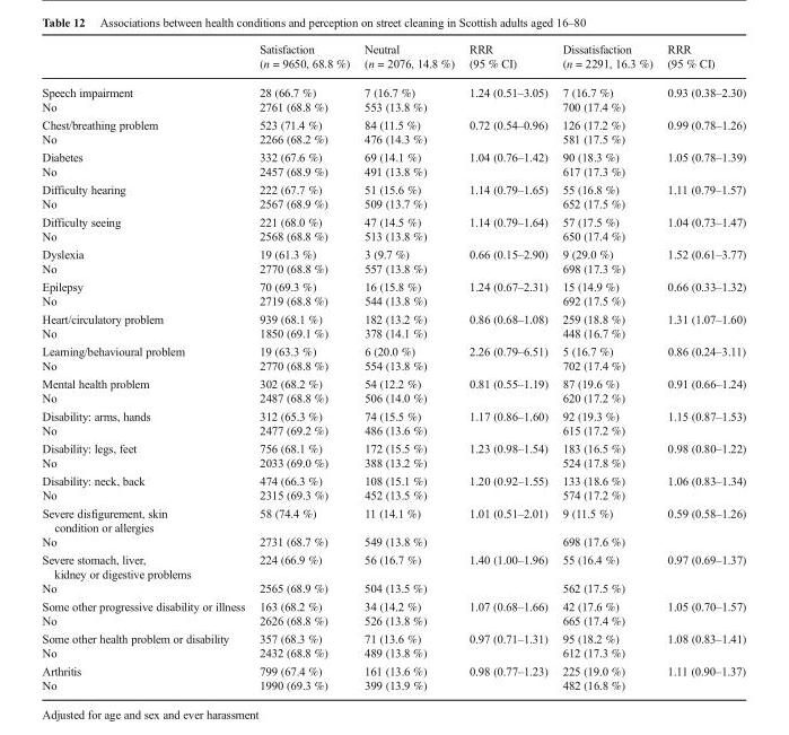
<table><thead><tr><td></td><td>Satisfaction (n = 9650, 68.8 %)</td><td>Neutral (n = 2076, 14.8 %)</td><td>RRR (95 % CI)</td><td>Dissatisfaction (n = 2291, 16.3 %)</td><td>RRR (95 % CI)</td></tr></thead><tbody><tr><td>Speech impairment</td><td>28 (66.7 %)</td><td>7 (16.7 %)</td><td rowspan="2">1.24 (0.51–3.05)</td><td>7 (16.7 %)</td><td rowspan="2">0.93 (0.38–2.30)</td></tr><tr><td>No</td><td>2761 (68.8 %)</td><td>553 (13.8 %)</td><td>700 (17.4 %)</td></tr><tr><td>Chest/breathing problem</td><td>523 (71.4 %)</td><td>84 (11.5 %)</td><td rowspan="2">0.72 (0.54–0.96)</td><td>126 (17.2 %)</td><td rowspan="2">0.99 (0.78–1.26)</td></tr><tr><td>No</td><td>2266 (68.2 %)</td><td>476 (14.3 %)</td><td>581 (17.5 %)</td></tr><tr><td>Diabetes</td><td>332 (67.6 %)</td><td>69 (14.1 %)</td><td rowspan="2">1.04 (0.76–1.42)</td><td>90 (18.3 %)</td><td rowspan="2">1.05 (0.78–1.39)</td></tr><tr><td>No</td><td>2457 (68.9 %)</td><td>491 (13.8 %)</td><td>617 (17.3 %)</td></tr><tr><td>Difficulty hearing</td><td>222 (67.7 %)</td><td>51 (15.6 %)</td><td rowspan="2">1.14 (0.79–1.65)</td><td>55 (16.8 %)</td><td rowspan="2">1.11 (0.79–1.57)</td></tr><tr><td>No</td><td>2567 (68.9 %)</td><td>509 (13.7 %)</td><td>652 (17.5 %)</td></tr><tr><td>Difficulty seeing</td><td>221 (68.0 %)</td><td>47 (14.5 %)</td><td rowspan="2">1.14 (0.79–1.64)</td><td>57 (17.5 %)</td><td rowspan="2">1.04 (0.73–1.47)</td></tr><tr><td>No</td><td>2568 (68.8 %)</td><td>513 (13.8 %)</td><td>650 (17.4 %)</td></tr><tr><td>Dyslexia</td><td>19 (61.3 %)</td><td>3 (9.7 %)</td><td rowspan="2">0.66 (0.15–2.90)</td><td>9 (29.0 %)</td><td rowspan="2">1.52 (0.61–3.77)</td></tr><tr><td>No</td><td>2770 (68.8 %)</td><td>557 (13.8 %)</td><td>698 (17.3 %)</td></tr><tr><td>Epilepsy</td><td>70 (69.3 %)</td><td>16 (15.8 %)</td><td rowspan="2">1.24 (0.67–2.31)</td><td>15 (14.9 %)</td><td rowspan="2">0.66 (0.33–1.32)</td></tr><tr><td>No</td><td>2719 (68.8 %)</td><td>544 (13.8 %)</td><td>692 (17.5 %)</td></tr><tr><td>Heart/circulatory problem</td><td>939 (68.1 %)</td><td>182 (13.2 %)</td><td rowspan="2">0.86 (0.68–1.08)</td><td>259 (18.8 %)</td><td rowspan="2">1.31 (1.07–1.60)</td></tr><tr><td>No</td><td>1850 (69.1 %)</td><td>378 (14.1 %)</td><td>448 (16.7 %)</td></tr><tr><td>Learning/behavioural problem</td><td>19 (63.3 %)</td><td>6 (20.0 %)</td><td rowspan="2">2.26 (0.79–6.51)</td><td>5 (16.7 %)</td><td rowspan="2">0.86 (0.24–3.11)</td></tr><tr><td>No</td><td>2770 (68.8 %)</td><td>554 (13.8 %)</td><td>702 (17.4 %)</td></tr><tr><td>Mental health problem</td><td>302 (68.2 %)</td><td>54 (12.2 %)</td><td rowspan="2">0.81 (0.55–1.19)</td><td>87 (19.6 %)</td><td rowspan="2">0.91 (0.66–1.24)</td></tr><tr><td>No</td><td>2487 (68.8 %)</td><td>506 (14.0 %)</td><td>620 (17.2 %)</td></tr><tr><td>Disability: arms, hands</td><td>312 (65.3 %)</td><td>74 (15.5 %)</td><td rowspan="2">1.17 (0.86–1.60)</td><td>92 (19.3 %)</td><td rowspan="2">1.15 (0.87–1.53)</td></tr><tr><td>No</td><td>2477 (69.2 %)</td><td>486 (13.6 %)</td><td>615 (17.2 %)</td></tr><tr><td>Disability: legs, feet</td><td>756 (68.1 %)</td><td>172 (15.5 %)</td><td rowspan="2">1.23 (0.98–1.54)</td><td>183 (16.5 %)</td><td rowspan="2">0.98 (0.80–1.22)</td></tr><tr><td>No</td><td>2033 (69.0 %)</td><td>388 (13.2 %)</td><td>524 (17.8 %)</td></tr><tr><td>Disability: neck, back</td><td>474 (66.3 %)</td><td>108 (15.1 %)</td><td rowspan="2">1.20 (0.92–1.55)</td><td>133 (18.6 %)</td><td rowspan="2">1.06 (0.83–1.34)</td></tr><tr><td>No</td><td>2315 (69.3 %)</td><td>452 (13.5 %)</td><td>574 (17.2 %)</td></tr><tr><td>Severe disfigurement, skin condition or allergies</td><td>58 (74.4 %)</td><td>11 (14.1 %)</td><td rowspan="2">1.01 (0.51–2.01)</td><td>9 (11.5 %)</td><td rowspan="2">0.59 (0.58–1.26)</td></tr><tr><td>No</td><td>2731 (68.7 %)</td><td>549 (13.8 %)</td><td>698 (17.6 %)</td></tr><tr><td>Severe stomach, liver, kidney or digestive problems</td><td>224 (66.9 %)</td><td>56 (16.7 %)</td><td rowspan="2">1.40 (1.00–1.96)</td><td>55 (16.4 %)</td><td rowspan="2">0.97 (0.69–1.37)</td></tr><tr><td>No</td><td>2565 (68.9 %)</td><td>504 (13.5 %)</td><td>562 (17.5 %)</td></tr><tr><td>Some other progressive disability or illness</td><td>163 (68.2 %)</td><td>34 (14.2 %)</td><td rowspan="2">1.07 (0.68–1.66)</td><td>42 (17.6 %)</td><td rowspan="2">1.05 (0.70–1.57)</td></tr><tr><td>No</td><td>2626 (68.8 %)</td><td>526 (13.8 %)</td><td>665 (17.4 %)</td></tr><tr><td>Some other health problem or disability</td><td>357 (68.3 %)</td><td>71 (13.6 %)</td><td rowspan="2">0.97 (0.71–1.31)</td><td>95 (18.2 %)</td><td rowspan="2">1.08 (0.83–1.41)</td></tr><tr><td>No</td><td>2432 (68.8 %)</td><td>489 (13.8 %)</td><td>612 (17.3 %)</td></tr><tr><td>Arthritis</td><td>799 (67.4 %)</td><td>161 (13.6 %)</td><td rowspan="2">0.98 (0.77–1.23)</td><td>225 (19.0 %)</td><td rowspan="2">1.11 (0.90–1.37)</td></tr><tr><td>No</td><td>1990 (69.3 %)</td><td>399 (13.9 %)</td><td>482 (16.8 %)</td></tr></tbody></table>